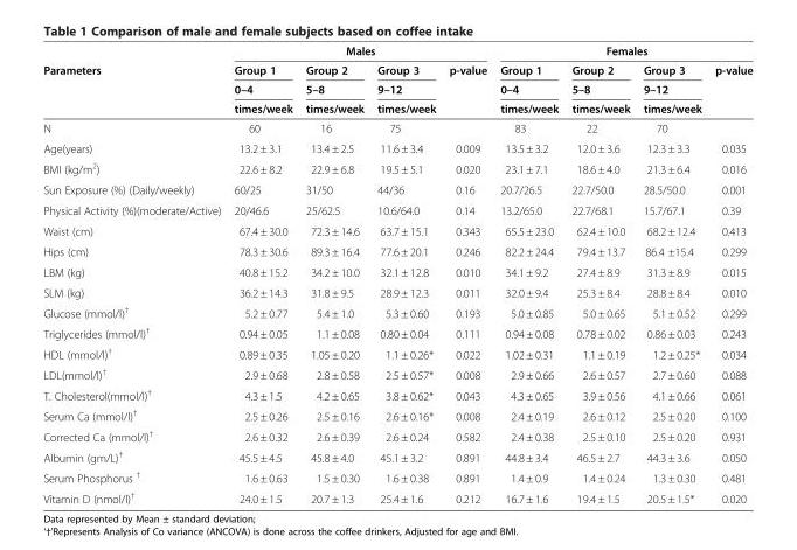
<table><thead><tr><td rowspan="4">Parameters</td><td colspan="4">Males</td><td colspan="4">Females</td></tr><tr><td rowspan="3">Group 1 0–4 times/week</td><td rowspan="3">Group 2 5–8 times/week</td><td rowspan="3">Group 3 9–12 times/week</td><td rowspan="3">p-value</td><td rowspan="3">Group 1 0–4 times/week</td><td rowspan="3">Group 2 5–8 times/week</td><td rowspan="3">Group 3 9–12 times/week</td><td rowspan="3">p-value</td></tr><tr></tr><tr></tr></thead><tbody><tr><td>N</td><td>60</td><td>16</td><td>75</td><td></td><td>83</td><td>22</td><td>70</td><td></td></tr><tr><td>Age(years)</td><td>13.2 ± 3.1</td><td>13.4 ± 2.5</td><td>11.6 ± 3.4</td><td>0.009</td><td>13.5 ± 3.2</td><td>12.0 ± 3.6</td><td>12.3 ± 3.3</td><td>0.035</td></tr><tr><td>BMI (kg/m<sup>2</sup>)</td><td>22.6 ± 8.2</td><td>22.9 ± 6.8</td><td>19.5 ± 5.1</td><td>0.020</td><td>23.1 ± 7.1</td><td>18.6 ± 4.0</td><td>21.3 ± 6.4</td><td>0.016</td></tr><tr><td>Sun Exposure (%) (Daily/weekly)</td><td>60/25</td><td>31/50</td><td>44/36</td><td>0.16</td><td>20.7/26.5</td><td>22.7/50.0</td><td>28.5/50.0</td><td>0.001</td></tr><tr><td>Physical Activity (%)(moderate/Active)</td><td>20/46.6</td><td>25/62.5</td><td>10.6/64.0</td><td>0.14</td><td>13.2/65.0</td><td>22.7/68.1</td><td>15.7/67.1</td><td>0.39</td></tr><tr><td>Waist (cm)</td><td>67.4 ± 30.0</td><td>72.3 ± 14.6</td><td>63.7 ± 15.1</td><td>0.343</td><td>65.5 ± 23.0</td><td>62.4 ± 10.0</td><td>68.2 ± 12.4</td><td>0.413</td></tr><tr><td>Hips (cm)</td><td>78.3 ± 30.6</td><td>89.3 ± 16.4</td><td>77.6 ± 20.1</td><td>0.246</td><td>82.2 ± 24.4</td><td>79.4 ± 13.7</td><td>86.4 ±15.4</td><td>0.299</td></tr><tr><td>LBM (kg)</td><td>40.8 ± 15.2</td><td>34.2 ± 10.0</td><td>32.1 ± 12.8</td><td>0.010</td><td>34.1 ± 9.2</td><td>27.4 ± 8.9</td><td>31.3 ± 8.9</td><td>0.015</td></tr><tr><td>SLM (kg)</td><td>36.2 ± 14.3</td><td>31.8 ± 9.5</td><td>28.9 ± 12.3</td><td>0.011</td><td>32.0 ± 9.4</td><td>25.3 ± 8.4</td><td>28.8 ± 8.4</td><td>0.010</td></tr><tr><td>Glucose (mmol/l)<sup>†</sup></td><td>5.2 ± 0.77</td><td>5.4 ± 1.0</td><td>5.3 ± 0.60</td><td>0.193</td><td>5.0 ± 0.85</td><td>5.0 ± 0.65</td><td>5.1 ± 0.52</td><td>0.299</td></tr><tr><td>Triglycerides (mmol/l)<sup>†</sup></td><td>0.94 ± 0.05</td><td>1.1 ± 0.08</td><td>0.80 ± 0.04</td><td>0.111</td><td>0.94 ± 0.08</td><td>0.78 ± 0.02</td><td>0.86 ± 0.03</td><td>0.243</td></tr><tr><td>HDL (mmol/l)<sup>†</sup></td><td>0.89 ± 0.35</td><td>1.05 ± 0.20</td><td>1.1 ± 0.26*</td><td>0.022</td><td>1.02 ± 0.31</td><td>1.1 ± 0.19</td><td>1.2 ± 0.25*</td><td>0.034</td></tr><tr><td>LDL(mmol/l)<sup>†</sup></td><td>2.9 ± 0.68</td><td>2.8 ± 0.58</td><td>2.5 ± 0.57*</td><td>0.008</td><td>2.9 ± 0.66</td><td>2.6 ± 0.57</td><td>2.7 ± 0.60</td><td>0.088</td></tr><tr><td>T. Cholesterol(mmol/l)<sup>†</sup></td><td>4.3 ± 1.5</td><td>4.2 ± 0.65</td><td>3.8 ± 0.62*</td><td>0.043</td><td>4.3 ± 0.65</td><td>3.9 ± 0.56</td><td>4.1 ± 0.66</td><td>0.061</td></tr><tr><td>Serum Ca (mmol/l)<sup>†</sup></td><td>2.5 ± 0.26</td><td>2.5 ± 0.16</td><td>2.6 ± 0.16*</td><td>0.008</td><td>2.4 ± 0.19</td><td>2.6 ± 0.12</td><td>2.5 ± 0.20</td><td>0.100</td></tr><tr><td>Corrected Ca (mmol/l)<sup>†</sup></td><td>2.6 ± 0.32</td><td>2.6 ± 0.39</td><td>2.6 ± 0.24</td><td>0.582</td><td>2.4 ± 0.38</td><td>2.5 ± 0.10</td><td>2.5 ± 0.20</td><td>0.931</td></tr><tr><td>Albumin (gm/L)<sup>†</sup></td><td>45.5 ± 4.5</td><td>45.8 ± 4.0</td><td>45.1 ± 3.2</td><td>0.891</td><td>44.8 ± 3.4</td><td>46.5 ± 2.7</td><td>44.3 ± 3.6</td><td>0.050</td></tr><tr><td>Serum Phosphorus <sup>†</sup></td><td>1.6 ± 0.63</td><td>1.5 ± 0.30</td><td>1.6 ± 0.38</td><td>0.891</td><td>1.4 ± 0.9</td><td>1.4 ± 0.24</td><td>1.3 ± 0.30</td><td>0.481</td></tr><tr><td>Vitamin D (nmol/l)<sup>†</sup></td><td>24.0 ± 1.5</td><td>20.7 ± 1.3</td><td>25.4 ± 1.6</td><td>0.212</td><td>16.7 ± 1.6</td><td>19.4 ± 1.5</td><td>20.5 ± 1.5*</td><td>0.020</td></tr></tbody></table>